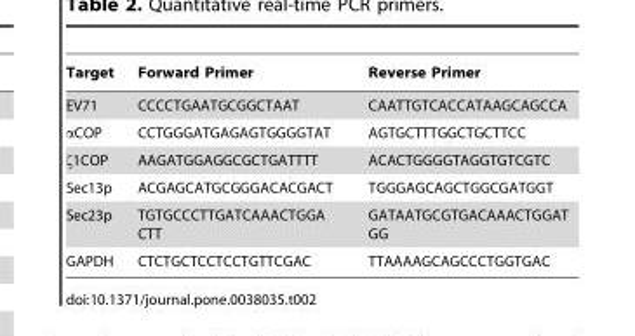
<table><thead><tr><td>Target</td><td>Forward Primer</td><td>Reverse Primer</td></tr></thead><tbody><tr><td>EV71</td><td>CCCCTGAATGCGGCTAAT</td><td>CAATTGTCACCATAAGCAGCCA</td></tr><tr><td>αCOP</td><td>CCTGGGATGAGAGTGGGGTAT</td><td>AGTGCTTTGGCTGCTTCC</td></tr><tr><td>ζ1COP</td><td>AAGATGGAGGCGCTGATTTT</td><td>ACACTGGGGTAGGTGTCGTC</td></tr><tr><td>Sec13p</td><td>ACGAGCATGCGGGACACGACT</td><td>TGGGAGCAGCTGGCGATGGT</td></tr><tr><td>Sec23p</td><td>TGTGCCCTTGATCAAACTGGA CTT</td><td>GATAATGCGTGACAAACTGGAT GG</td></tr><tr><td>GAPDH</td><td>CTCTGCTCCTCCTGTTCGAC</td><td>TTAAAAGCAGCCCTGGTGAC</td></tr></tbody></table>